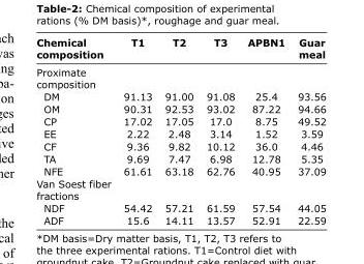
<table><thead><tr><td>Chemical composition</td><td>T1</td><td>T2</td><td>T3</td><td>APBN1</td><td>Guar meal</td></tr></thead><tbody><tr><td colspan="6">Proximate composition</td></tr><tr><td>DM</td><td>91.13</td><td>91.00</td><td>91.08</td><td>25.4</td><td>93.56</td></tr><tr><td>OM</td><td>90.31</td><td>92.53</td><td>93.02</td><td>87.22</td><td>94.66</td></tr><tr><td>CP</td><td>17.02</td><td>17.05</td><td>17.0</td><td>8.75</td><td>49.52</td></tr><tr><td>EE</td><td>2.22</td><td>2.48</td><td>3.14</td><td>1.52</td><td>3.59</td></tr><tr><td>CF</td><td>9.36</td><td>9.82</td><td>10.12</td><td>36.0</td><td>4.46</td></tr><tr><td>TA</td><td>9.69</td><td>7.47</td><td>6.98</td><td>12.78</td><td>5.35</td></tr><tr><td>NFE</td><td>61.61</td><td>63.18</td><td>62.76</td><td>40.95</td><td>37.09</td></tr><tr><td colspan="6">Van Soest fiber fractions</td></tr><tr><td>NDF</td><td>54.42</td><td>57.21</td><td>61.59</td><td>57.54</td><td>44.05</td></tr><tr><td>ADF</td><td>15.6</td><td>14.11</td><td>13.57</td><td>52.91</td><td>22.59</td></tr></tbody></table>